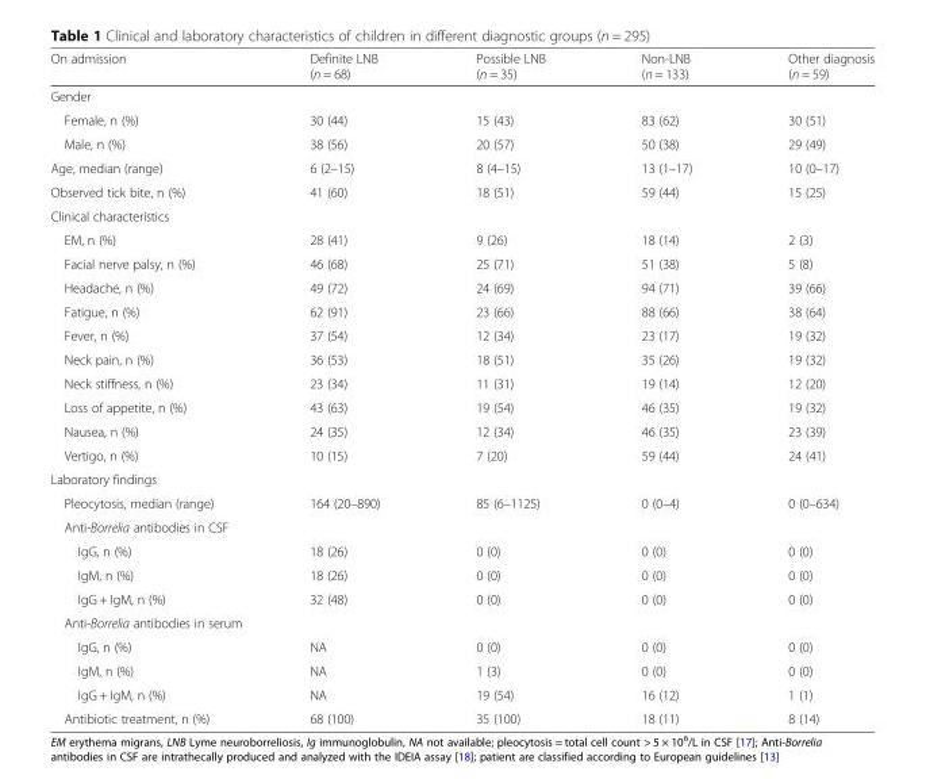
<table><thead><tr><td>On admission</td><td>Definite LNB (n = 68)</td><td>Possible LNB (n = 35)</td><td>Non-LNB (n = 133)</td><td>Other diagnosis (n = 59)</td></tr></thead><tbody><tr><td colspan="5">Gender</td></tr><tr><td>Female, n (%)</td><td>30 (44)</td><td>15 (43)</td><td>83 (62)</td><td>30 (51)</td></tr><tr><td>Male, n (%)</td><td>38 (56)</td><td>20 (57)</td><td>50 (38)</td><td>29 (49)</td></tr><tr><td>Age, median (range)</td><td>6 (2–15)</td><td>8 (4–15)</td><td>13 (1–17)</td><td>10 (0–17)</td></tr><tr><td>Observed tick bite, n (%)</td><td>41 (60)</td><td>18 (51)</td><td>59 (44)</td><td>15 (25)</td></tr><tr><td colspan="5">Clinical characteristics</td></tr><tr><td>EM, n (%)</td><td>28 (41)</td><td>9 (26)</td><td>18 (14)</td><td>2 (3)</td></tr><tr><td>Facial nerve palsy, n (%)</td><td>46 (68)</td><td>25 (71)</td><td>51 (38)</td><td>5 (8)</td></tr><tr><td>Headache, n (%)</td><td>49 (72)</td><td>24 (69)</td><td>94 (71)</td><td>39 (66)</td></tr><tr><td>Fatigue, n (%)</td><td>62 (91)</td><td>23 (66)</td><td>88 (66)</td><td>38 (64)</td></tr><tr><td>Fever, n (%)</td><td>37 (54)</td><td>12 (34)</td><td>23 (17)</td><td>19 (32)</td></tr><tr><td>Neck pain, n (%)</td><td>36 (53)</td><td>18 (51)</td><td>35 (26)</td><td>19 (32)</td></tr><tr><td>Neck stiffness, n (%)</td><td>23 (34)</td><td>11 (31)</td><td>19 (14)</td><td>12 (20)</td></tr><tr><td>Loss of appetite, n (%)</td><td>43 (63)</td><td>19 (54)</td><td>46 (35)</td><td>19 (32)</td></tr><tr><td>Nausea, n (%)</td><td>24 (35)</td><td>12 (34)</td><td>46 (35)</td><td>23 (39)</td></tr><tr><td>Vertigo, n (%)</td><td>10 (15)</td><td>7 (20)</td><td>59 (44)</td><td>24 (41)</td></tr><tr><td colspan="5">Laboratory findings</td></tr><tr><td>Pleocytosis, median (range)</td><td>164 (20–890)</td><td>85 (6–1125)</td><td>0 (0–4)</td><td>0 (0–634)</td></tr><tr><td colspan="5">Anti-Borrelia antibodies in CSF</td></tr><tr><td>IgG, n (%)</td><td>18 (26)</td><td>0 (0)</td><td>0 (0)</td><td>0 (0)</td></tr><tr><td>IgM, n (%)</td><td>18 (26)</td><td>0 (0)</td><td>0 (0)</td><td>0 (0)</td></tr><tr><td>IgG + IgM, n (%)</td><td>32 (48)</td><td>0 (0)</td><td>0 (0)</td><td>0 (0)</td></tr><tr><td colspan="5">Anti-Borrelia antibodies in serum</td></tr><tr><td>IgG, n (%)</td><td>NA</td><td>0 (0)</td><td>0 (0)</td><td>0 (0)</td></tr><tr><td>IgM, n (%)</td><td>NA</td><td>1 (3)</td><td>0 (0)</td><td>0 (0)</td></tr><tr><td>IgG + IgM, n (%)</td><td>NA</td><td>19 (54)</td><td>16 (12)</td><td>1 (1)</td></tr><tr><td>Antibiotic treatment, n (%)</td><td>68 (100)</td><td>35 (100)</td><td>18 (11)</td><td>8 (14)</td></tr></tbody></table>